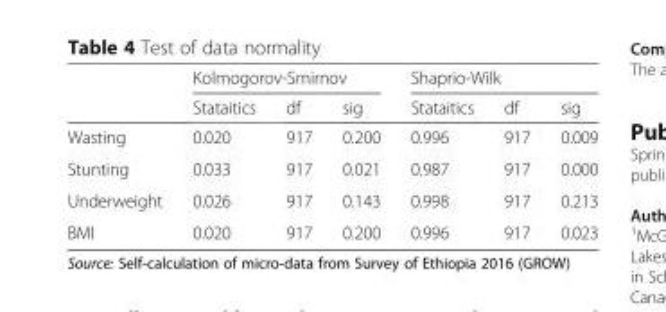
<table><thead><tr><td rowspan="2"></td><td colspan="3">Kolmogorov-Smirnov</td><td colspan="3">Shaprio-Wilk</td></tr><tr><td>Stataitics</td><td>df</td><td>sig</td><td>Stataitics</td><td>df</td><td>sig</td></tr></thead><tbody><tr><td>Wasting</td><td>0.020</td><td>917</td><td>0.200</td><td>0.996</td><td>917</td><td>0.009</td></tr><tr><td>Stunting</td><td>0.033</td><td>917</td><td>0.021</td><td>0.987</td><td>917</td><td>0.000</td></tr><tr><td>Underweight</td><td>0.026</td><td>917</td><td>0.143</td><td>0.998</td><td>917</td><td>0.213</td></tr><tr><td>BMI</td><td>0.020</td><td>917</td><td>0.200</td><td>0.996</td><td>917</td><td>0.023</td></tr></tbody></table>